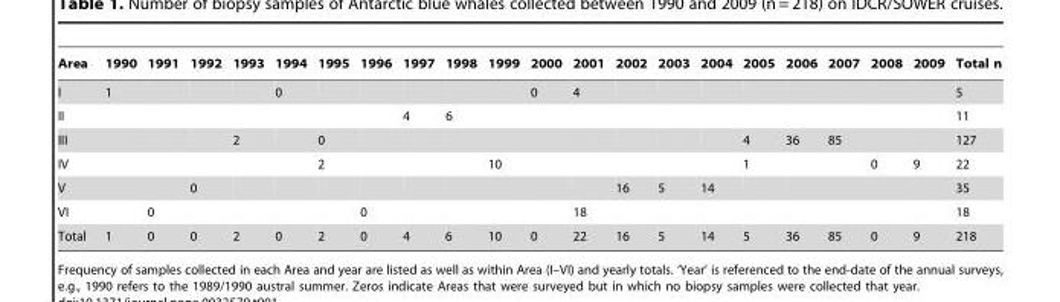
<table><thead><tr><td>Area</td><td>1990</td><td>1991</td><td>1992</td><td>1993</td><td>1994</td><td>1995</td><td>1996</td><td>1997</td><td>1998</td><td>1999</td><td>2000</td><td>2001</td><td>2002</td><td>2003</td><td>2004</td><td>2005</td><td>2006</td><td>2007</td><td>2008</td><td>2009</td><td>Total n</td></tr></thead><tbody><tr><td>I</td><td>1</td><td></td><td></td><td></td><td>0</td><td></td><td></td><td></td><td></td><td></td><td>0</td><td>4</td><td></td><td></td><td></td><td></td><td></td><td></td><td></td><td></td><td>5</td></tr><tr><td>II</td><td></td><td></td><td></td><td></td><td></td><td></td><td></td><td>4</td><td>6</td><td></td><td></td><td></td><td></td><td></td><td></td><td></td><td></td><td></td><td></td><td></td><td>11</td></tr><tr><td>III</td><td></td><td></td><td></td><td>2</td><td></td><td>0</td><td></td><td></td><td></td><td></td><td></td><td></td><td></td><td></td><td></td><td>4</td><td>36</td><td>85</td><td></td><td></td><td>127</td></tr><tr><td>IV</td><td></td><td></td><td></td><td></td><td></td><td>2</td><td></td><td></td><td></td><td>10</td><td></td><td></td><td></td><td></td><td></td><td>1</td><td></td><td></td><td>0</td><td>9</td><td>22</td></tr><tr><td>V</td><td></td><td></td><td>0</td><td></td><td></td><td></td><td></td><td></td><td></td><td></td><td></td><td></td><td>16</td><td>5</td><td>14</td><td></td><td></td><td></td><td></td><td></td><td>35</td></tr><tr><td>VI</td><td></td><td>0</td><td></td><td></td><td></td><td></td><td>0</td><td></td><td></td><td></td><td></td><td>18</td><td></td><td></td><td></td><td></td><td></td><td></td><td></td><td></td><td>18</td></tr><tr><td>Total</td><td>1</td><td>0</td><td>0</td><td>2</td><td>0</td><td>2</td><td>0</td><td>4</td><td>6</td><td>10</td><td>0</td><td>22</td><td>16</td><td>5</td><td>14</td><td>5</td><td>36</td><td>85</td><td>0</td><td>9</td><td>218</td></tr></tbody></table>